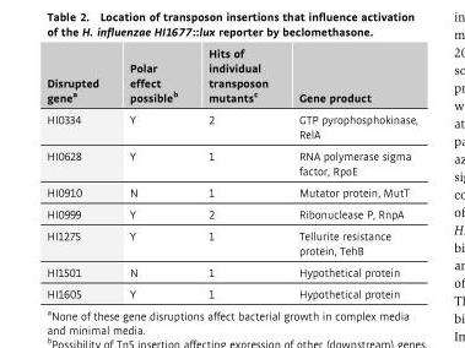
<table><thead><tr><td>Disrupted genea</td><td>Polar effect possibleb</td><td>Hits of individual transposon mutantsc</td><td>Gene product</td></tr></thead><tbody><tr><td>HI0334</td><td>Y</td><td>2</td><td>GTP pyrophosphokinase, RelA</td></tr><tr><td>HI0628</td><td>Y</td><td>1</td><td>RNA polymerase sigma factor, RpoE</td></tr><tr><td>HI0910</td><td>N</td><td>1</td><td>Mutator protein, MutT</td></tr><tr><td>HI0999</td><td>Y</td><td>2</td><td>Ribonuclease P, RnpA</td></tr><tr><td>HI1275</td><td>Y</td><td>1</td><td>Tellurite resistance protein, TehB</td></tr><tr><td>HI1501</td><td>N</td><td>1</td><td>Hypothetical protein</td></tr><tr><td>HI1605</td><td>Y</td><td>1</td><td>Hypothetical protein</td></tr></tbody></table>